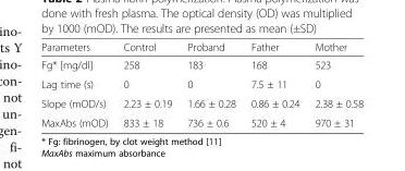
<table><thead><tr><td>Parameters</td><td>Control</td><td>Proband</td><td>Father</td><td>Mother</td></tr></thead><tbody><tr><td>Fg* [mg/dl]</td><td>258</td><td>183</td><td>168</td><td>523</td></tr><tr><td>Lag time (s)</td><td>0</td><td>0</td><td>7.5 ± 11</td><td>0</td></tr><tr><td>Slope (mOD/s)</td><td>2.23 ± 0.19</td><td>1.66 ± 0.28</td><td>0.86 ± 0.24</td><td>2.38 ± 0.58</td></tr><tr><td>MaxAbs (mOD)</td><td>833 ± 18</td><td>736 ± 0.6</td><td>520 ± 4</td><td>970 ± 31</td></tr></tbody></table>